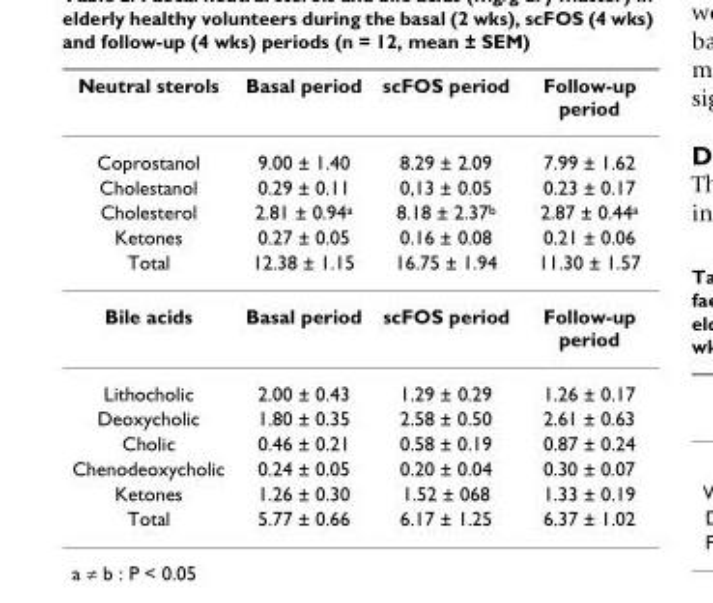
<table><thead><tr><td>Neutral sterols</td><td>Basal period</td><td>scFOS period</td><td>Follow-up period</td></tr></thead><tbody><tr><td>Coprostanol</td><td>9.00 ± 1.40</td><td>8.29 ± 2.09</td><td>7.99 ± 1.62</td></tr><tr><td>Cholestanol</td><td>0.29 ± 0.11</td><td>0,13 ± 0.05</td><td>0.23 ± 0.17</td></tr><tr><td>Cholesterol</td><td>2.81 ± 0.94<sup>a</sup></td><td>8.18 ± 2.37<sup>b</sup></td><td>2.87 ± 0.44<sup>a</sup></td></tr><tr><td>Ketones</td><td>0.27 ± 0.05</td><td>0.16 ± 0.08</td><td>0.21 ± 0.06</td></tr><tr><td>Total</td><td>12.38 ± 1.15</td><td>16.75 ± 1.94</td><td>11.30 ± 1.57</td></tr><tr><td>Bile acids</td><td>Basal period</td><td>scFOS period</td><td>Follow-up period</td></tr><tr><td>Lithocholic</td><td>2.00 ± 0.43</td><td>1.29 ± 0.29</td><td>1.26 ± 0.17</td></tr><tr><td>Deoxycholic</td><td>1.80 ± 0.35</td><td>2.58 ± 0.50</td><td>2.61 ± 0.63</td></tr><tr><td>Cholic</td><td>0.46 ± 0.21</td><td>0.58 ± 0.19</td><td>0.87 ± 0.24</td></tr><tr><td>Chenodeoxycholic</td><td>0.24 ± 0.05</td><td>0.20 ± 0.04</td><td>0.30 ± 0.07</td></tr><tr><td>Ketones</td><td>1.26 ± 0.30</td><td>1.52 ± 068</td><td>1.33 ± 0.19</td></tr><tr><td>Total</td><td>5.77 ± 0.66</td><td>6.17 ± 1.25</td><td>6.37 ± 1.02</td></tr></tbody></table>